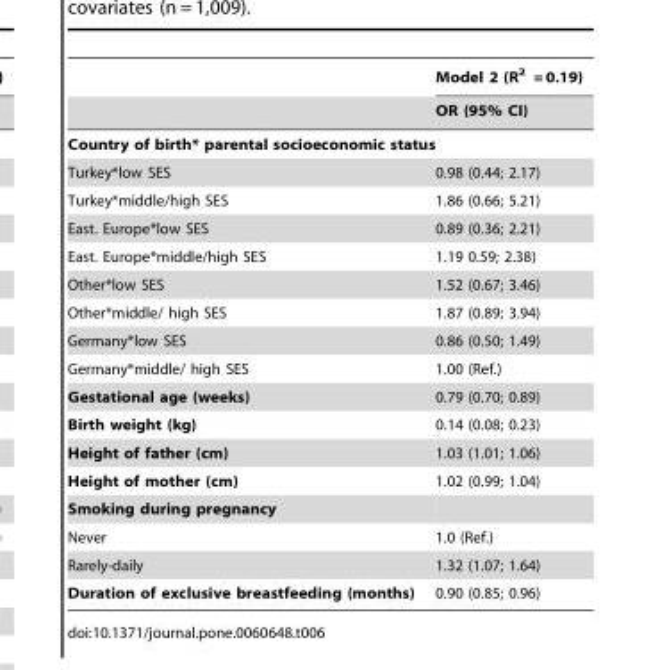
<table><thead><tr><td rowspan="2"></td><td rowspan="2">Model 2 (R<sup>2</sup> = 0.19) OR (95% CI)</td></tr><tr></tr></thead><tbody><tr><td colspan="2">Country of birth* parental socioeconomic status</td></tr><tr><td>Turkey*low SES</td><td>0.98 (0.44; 2.17)</td></tr><tr><td>Turkey*middle/high SES</td><td>1.86 (0.66; 5.21)</td></tr><tr><td>East. Europe*low SES</td><td>0.89 (0.36; 2.21)</td></tr><tr><td>East. Europe*middle/high SES</td><td>1.19 0.59; 2.38)</td></tr><tr><td>Other*low SES</td><td>1.52 (0.67; 3.46)</td></tr><tr><td>Other*middle/ high SES</td><td>1.87 (0.89; 3.94)</td></tr><tr><td>Germany*low SES</td><td>0.86 (0.50; 1.49)</td></tr><tr><td>Germany*middle/ high SES</td><td>1.00 (Ref.)</td></tr><tr><td>Gestational age (weeks)</td><td>0.79 (0.70; 0.89)</td></tr><tr><td>Birth weight (kg)</td><td>0.14 (0.08; 0.23)</td></tr><tr><td>Height of father (cm)</td><td>1.03 (1.01; 1.06)</td></tr><tr><td>Height of mother (cm)</td><td>1.02 (0.99; 1.04)</td></tr><tr><td colspan="2">Smoking during pregnancy</td></tr><tr><td>Never</td><td>1.0 (Ref.)</td></tr><tr><td>Rarely-daily</td><td>1.32 (1.07; 1.64)</td></tr><tr><td>Duration of exclusive breastfeeding (months)</td><td>0.90 (0.85; 0.96)</td></tr></tbody></table>